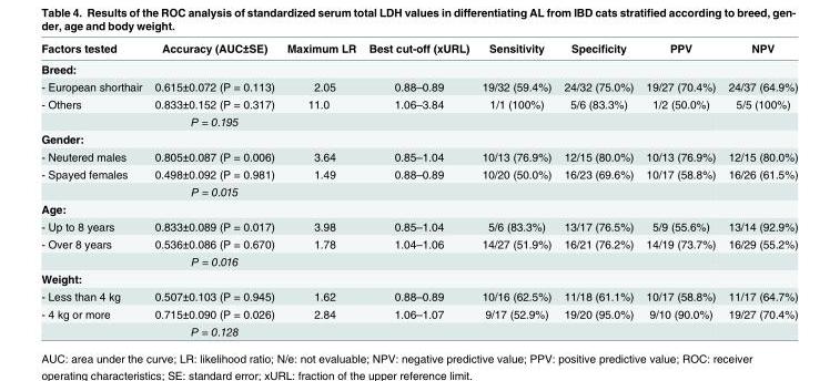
<table><thead><tr><td>Factors tested</td><td>Accuracy (AUC±SE)</td><td>Maximum LR</td><td>Best cut-off (xURL)</td><td>Sensitivity</td><td>Specificity</td><td>PPV</td><td>NPV</td></tr></thead><tbody><tr><td colspan="8">Breed:</td></tr><tr><td>- European shorthair</td><td>0.615±0.072 (P = 0.113)</td><td>2.05</td><td>0.88–0.89</td><td>19/32 (59.4%)</td><td>24/32 (75.0%)</td><td>19/27 (70.4%)</td><td>24/37 (64.9%)</td></tr><tr><td rowspan="2">- Others</td><td>0.833±0.152 (P = 0.317)</td><td>11.0</td><td>1.06–3.84</td><td>1/1 (100%)</td><td>5/6 (83.3%)</td><td>1/2 (50.0%)</td><td>5/5 (100%)</td></tr><tr><td>P = 0.195</td><td></td><td></td><td></td><td></td><td></td><td></td></tr><tr><td colspan="8">Gender:</td></tr><tr><td>- Neutered males</td><td>0.805±0.087 (P = 0.006)</td><td>3.64</td><td>0.85–1.04</td><td>10/13 (76.9%)</td><td>12/15 (80.0%)</td><td>10/13 (76.9%)</td><td>12/15 (80.0%)</td></tr><tr><td rowspan="2">- Spayed females</td><td>0.498±0.092 (P = 0.981)</td><td>1.49</td><td>0.88–0.89</td><td>10/20 (50.0%)</td><td>16/23 (69.6%)</td><td>10/17 (58.8%)</td><td>16/26 (61.5%)</td></tr><tr><td>P = 0.015</td><td></td><td></td><td></td><td></td><td></td><td></td></tr><tr><td colspan="8">Age:</td></tr><tr><td>- Up to 8 years</td><td>0.833±0.089 (P = 0.017)</td><td>3.98</td><td>0.85–1.04</td><td>5/6 (83.3%)</td><td>13/17 (76.5%)</td><td>5/9 (55.6%)</td><td>13/14 (92.9%)</td></tr><tr><td rowspan="2">- Over 8 years</td><td>0.536±0.086 (P = 0.670)</td><td>1.78</td><td>1.04–1.06</td><td>14/27 (51.9%)</td><td>16/21 (76.2%)</td><td>14/19 (73.7%)</td><td>16/29 (55.2%)</td></tr><tr><td>P = 0.016</td><td></td><td></td><td></td><td></td><td></td><td></td></tr><tr><td colspan="8">Weight:</td></tr><tr><td>- Less than 4 kg</td><td>0.507±0.103 (P = 0.945)</td><td>1.62</td><td>0.88–0.89</td><td>10/16 (62.5%)</td><td>11/18 (61.1%)</td><td>10/17 (58.8%)</td><td>11/17 (64.7%)</td></tr><tr><td rowspan="2">- 4 kg or more</td><td>0.715±0.090 (P = 0.026)</td><td>2.84</td><td>1.06–1.07</td><td>9/17 (52.9%)</td><td>19/20 (95.0%)</td><td>9/10 (90.0%)</td><td>19/27 (70.4%)</td></tr><tr><td>P = 0.128</td><td></td><td></td><td></td><td></td><td></td><td></td></tr></tbody></table>